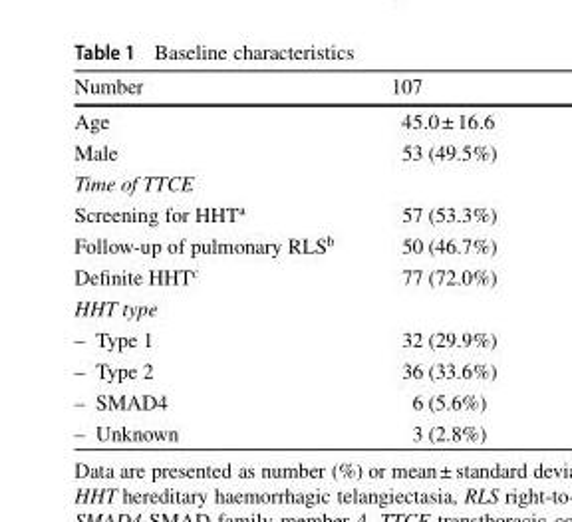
<table><thead><tr><td>Number</td><td>107</td></tr></thead><tbody><tr><td>Age</td><td>45.0± 16.6</td></tr><tr><td>Male</td><td>53 (49.5%)</td></tr><tr><td colspan="2">Time of TTCE</td></tr><tr><td>Screening for HHT<sup>a</sup></td><td>57 (53.3%)</td></tr><tr><td>Follow-up of pulmonary RLS<sup>b</sup></td><td>50 (46.7%)</td></tr><tr><td>Definite HHT<sup>c</sup></td><td>77 (72.0%)</td></tr><tr><td colspan="2">HHT type</td></tr><tr><td>– Type 1</td><td>32 (29.9%)</td></tr><tr><td>– Type 2</td><td>36 (33.6%)</td></tr><tr><td>– SMAD4</td><td>6 (5.6%)</td></tr><tr><td>– Unknown</td><td>3 (2.8%)</td></tr></tbody></table>